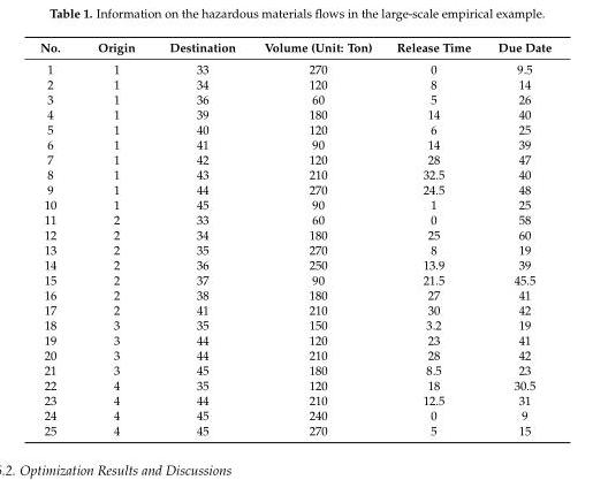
<table><thead><tr><td>No.</td><td>Origin</td><td>Destination</td><td>Volume (Unit: Ton)</td><td>Release Time</td><td>Due Date</td></tr></thead><tbody><tr><td>1</td><td>1</td><td>33</td><td>270</td><td>0</td><td>9.5</td></tr><tr><td>2</td><td>1</td><td>34</td><td>120</td><td>8</td><td>14</td></tr><tr><td>3</td><td>1</td><td>36</td><td>60</td><td>5</td><td>26</td></tr><tr><td>4</td><td>1</td><td>39</td><td>180</td><td>14</td><td>40</td></tr><tr><td>5</td><td>1</td><td>40</td><td>120</td><td>6</td><td>25</td></tr><tr><td>6</td><td>1</td><td>41</td><td>90</td><td>14</td><td>39</td></tr><tr><td>7</td><td>1</td><td>42</td><td>120</td><td>28</td><td>47</td></tr><tr><td>8</td><td>1</td><td>43</td><td>210</td><td>32.5</td><td>40</td></tr><tr><td>9</td><td>1</td><td>44</td><td>270</td><td>24.5</td><td>48</td></tr><tr><td>10</td><td>1</td><td>45</td><td>90</td><td>1</td><td>25</td></tr><tr><td>11</td><td>2</td><td>33</td><td>60</td><td>0</td><td>58</td></tr><tr><td>12</td><td>2</td><td>34</td><td>180</td><td>25</td><td>60</td></tr><tr><td>13</td><td>2</td><td>35</td><td>270</td><td>8</td><td>19</td></tr><tr><td>14</td><td>2</td><td>36</td><td>250</td><td>13.9</td><td>39</td></tr><tr><td>15</td><td>2</td><td>37</td><td>90</td><td>21.5</td><td>45.5</td></tr><tr><td>16</td><td>2</td><td>38</td><td>180</td><td>27</td><td>41</td></tr><tr><td>17</td><td>2</td><td>41</td><td>210</td><td>30</td><td>42</td></tr><tr><td>18</td><td>3</td><td>35</td><td>150</td><td>3.2</td><td>19</td></tr><tr><td>19</td><td>3</td><td>44</td><td>120</td><td>23</td><td>41</td></tr><tr><td>20</td><td>3</td><td>44</td><td>210</td><td>28</td><td>42</td></tr><tr><td>21</td><td>3</td><td>45</td><td>180</td><td>8.5</td><td>23</td></tr><tr><td>22</td><td>4</td><td>35</td><td>120</td><td>18</td><td>30.5</td></tr><tr><td>23</td><td>4</td><td>44</td><td>210</td><td>12.5</td><td>31</td></tr><tr><td>24</td><td>4</td><td>45</td><td>240</td><td>0</td><td>9</td></tr><tr><td>25</td><td>4</td><td>45</td><td>270</td><td>5</td><td>15</td></tr></tbody></table>